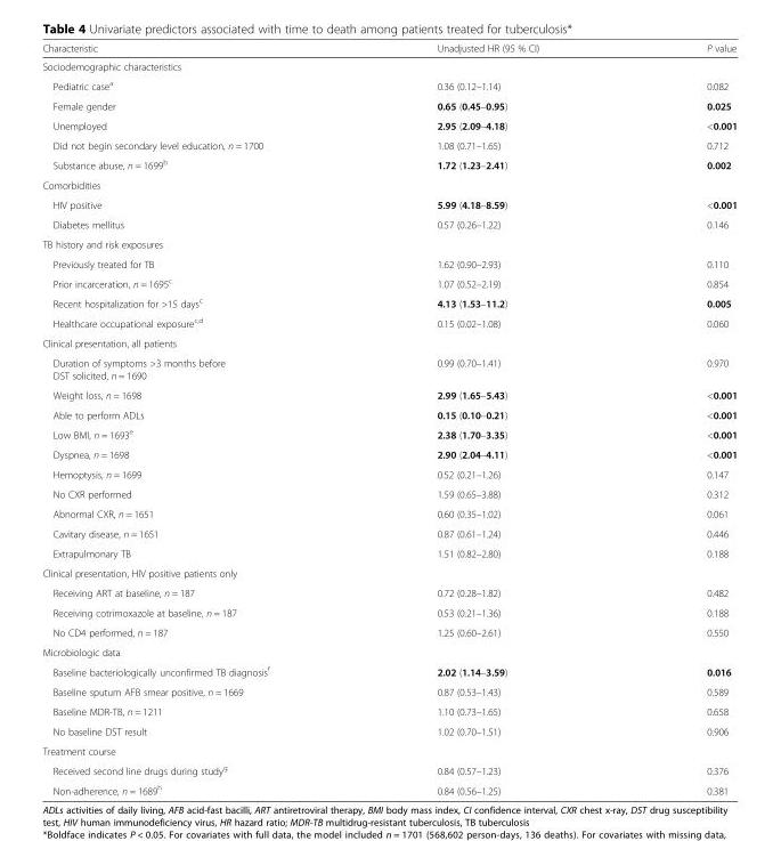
<table><thead><tr><td>Characteristic</td><td>Unadjusted HR (95 % CI)</td><td>P value</td></tr></thead><tbody><tr><td colspan="3">Sociodemographic characteristics</td></tr><tr><td>Pediatric case<sup>a</sup></td><td>0.36 (0.12–1.14)</td><td>0.082</td></tr><tr><td>Female gender</td><td>0.65 (0.45–0.95)</td><td>0.025</td></tr><tr><td>Unemployed</td><td>2.95 (2.09–4.18)</td><td>&lt;0.001</td></tr><tr><td>Did not begin secondary level education, n = 1700</td><td>1.08 (0.71–1.65)</td><td>0.712</td></tr><tr><td>Substance abuse, n = 1699<sup>b</sup></td><td>1.72 (1.23–2.41)</td><td>0.002</td></tr><tr><td colspan="3">Comorbidities</td></tr><tr><td>HIV positive</td><td>5.99 (4.18–8.59)</td><td>&lt;0.001</td></tr><tr><td>Diabetes mellitus</td><td>0.57 (0.26–1.22)</td><td>0.146</td></tr><tr><td colspan="3">TB history and risk exposures</td></tr><tr><td>Previously treated for TB</td><td>1.62 (0.90–2.93)</td><td>0.110</td></tr><tr><td>Prior incarceration, n = 1695<sup>c</sup></td><td>1.07 (0.52–2.19)</td><td>0.854</td></tr><tr><td>Recent hospitalization for &gt;15 days<sup>c</sup></td><td>4.13 (1.53–11.2)</td><td>0.005</td></tr><tr><td>Healthcare occupational exposure<sup>c,d</sup></td><td>0.15 (0.02–1.08)</td><td>0.060</td></tr><tr><td colspan="3">Clinical presentation, all patients</td></tr><tr><td>Duration of symptoms &gt;3 months before DST solicited, n = 1690</td><td>0.99 (0.70–1.41)</td><td>0.970</td></tr><tr><td>Weight loss, n = 1698</td><td>2.99 (1.65–5.43)</td><td>&lt;0.001</td></tr><tr><td>Able to perform ADLs</td><td>0.15 (0.10–0.21)</td><td>&lt;0.001</td></tr><tr><td>Low BMI, n = 1693<sup>e</sup></td><td>2.38 (1.70–3.35)</td><td>&lt;0.001</td></tr><tr><td>Dyspnea, n = 1698</td><td>2.90 (2.04–4.11)</td><td>&lt;0.001</td></tr><tr><td>Hemoptysis, n = 1699</td><td>0.52 (0.21–1.26)</td><td>0.147</td></tr><tr><td>No CXR performed</td><td>1.59 (0.65–3.88)</td><td>0.312</td></tr><tr><td>Abnormal CXR, n = 1651</td><td>0.60 (0.35–1.02)</td><td>0.061</td></tr><tr><td>Cavitary disease, n = 1651</td><td>0.87 (0.61–1.24)</td><td>0.446</td></tr><tr><td>Extrapulmonary TB</td><td>1.51 (0.82–2.80)</td><td>0.188</td></tr><tr><td colspan="3">Clinical presentation, HIV positive patients only</td></tr><tr><td>Receiving ART at baseline, n = 187</td><td>0.72 (0.28–1.82)</td><td>0.482</td></tr><tr><td>Receiving cotrimoxazole at baseline, n = 187</td><td>0.53 (0.21–1.36)</td><td>0.188</td></tr><tr><td>No CD4 performed, n = 187</td><td>1.25 (0.60–2.61)</td><td>0.550</td></tr><tr><td colspan="3">Microbiologic data</td></tr><tr><td>Baseline bacteriologically unconfirmed TB diagnosis<sup>f</sup></td><td>2.02 (1.14–3.59)</td><td>0.016</td></tr><tr><td>Baseline sputum AFB smear positive, n = 1669</td><td>0.87 (0.53–1.43)</td><td>0.589</td></tr><tr><td>Baseline MDR-TB, n = 1211</td><td>1.10 (0.73–1.65)</td><td>0.658</td></tr><tr><td>No baseline DST result</td><td>1.02 (0.70–1.51)</td><td>0.906</td></tr><tr><td colspan="3">Treatment course</td></tr><tr><td>Received second line drugs during study<sup>g</sup></td><td>0.84 (0.57–1.23)</td><td>0.376</td></tr><tr><td>Non-adherence, n = 1689<sup>h</sup></td><td>0.84 (0.56–1.25)</td><td>0.381</td></tr></tbody></table>